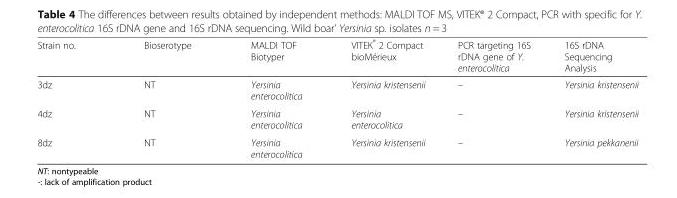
<table><thead><tr><td>Strain no.</td><td>Bioserotype</td><td>MALDI TOF Biotyper</td><td>VITEK<sup>®</sup> 2 Compact bioMérieux</td><td>PCR targeting 16S rDNA gene of Y. enterocolitica</td><td>16S rDNA Sequencing Analysis</td></tr></thead><tbody><tr><td>3dz</td><td>NT</td><td>Yersinia enterocolitica</td><td>Yersinia kristensenii</td><td>–</td><td>Yersinia kristensenii</td></tr><tr><td>4dz</td><td>NT</td><td>Yersinia enterocolitica</td><td>Yersinia enterocolitica</td><td>–</td><td>Yersinia kristensenii</td></tr><tr><td>8dz</td><td>NT</td><td>Yersinia enterocolitica</td><td>Yersinia kristensenii</td><td>–</td><td>Yersinia pekkanenii</td></tr></tbody></table>